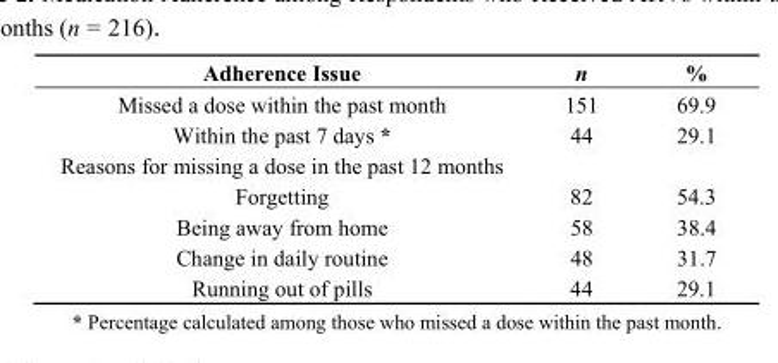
<table><thead><tr><td>Adherence Issue</td><td>n</td><td>%</td></tr></thead><tbody><tr><td>Missed a dose within the past month</td><td>151</td><td>69.9</td></tr><tr><td>Within the past 7 days *</td><td>44</td><td>29.1</td></tr><tr><td colspan="3">Reasons for missing a dose in the past 12 months</td></tr><tr><td>Forgetting</td><td>82</td><td>54.3</td></tr><tr><td>Being away from home</td><td>58</td><td>38.4</td></tr><tr><td>Change in daily routine</td><td>48</td><td>31.7</td></tr><tr><td>Running out of pills</td><td>44</td><td>29.1</td></tr></tbody></table>